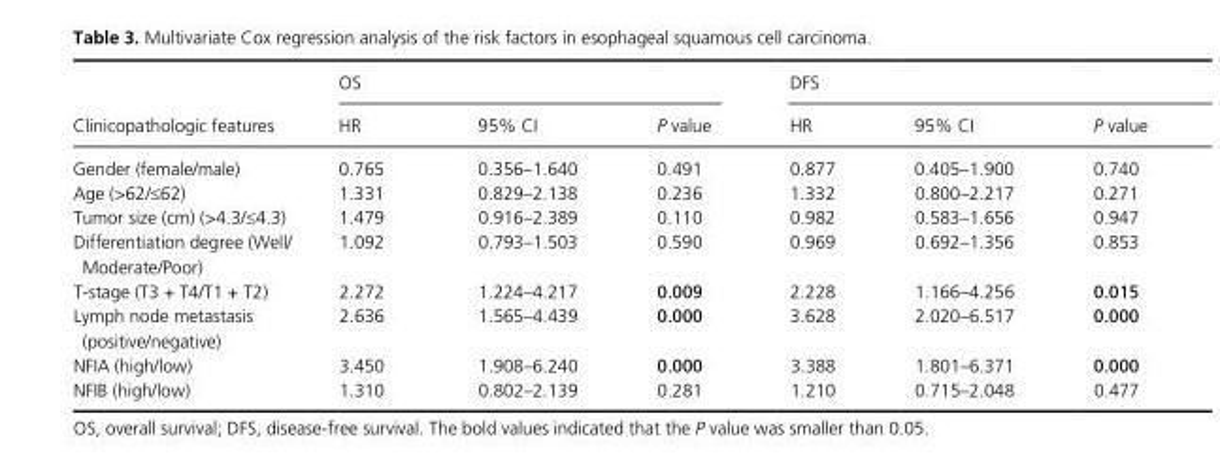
<table><thead><tr><td rowspan="2">Clinicopathologic features</td><td colspan="3">OS</td><td colspan="3">DFS</td></tr><tr><td>HR</td><td>95% CI</td><td>P value</td><td>HR</td><td>95% CI</td><td>P value</td></tr></thead><tbody><tr><td>Gender (female/male)</td><td>0.765</td><td>0.356–1.640</td><td>0.491</td><td>0.877</td><td>0.405–1.900</td><td>0.740</td></tr><tr><td>Age (&gt;62/≤62)</td><td>1.331</td><td>0.829–2.138</td><td>0.236</td><td>1.332</td><td>0.800–2.217</td><td>0.271</td></tr><tr><td>Tumor size (cm) (&gt;4.3/≤4.3)</td><td>1.479</td><td>0.916–2.389</td><td>0.110</td><td>0.982</td><td>0.583–1.656</td><td>0.947</td></tr><tr><td>Differentiation degree (Well/ Moderate/Poor)</td><td>1.092</td><td>0.793–1.503</td><td>0.590</td><td>0.969</td><td>0.692–1.356</td><td>0.853</td></tr><tr><td>T- stage (T3 + T4/T1 + T2)</td><td>2.272</td><td>1.224–4.217</td><td>0.009</td><td>2.228</td><td>1.166–4.256</td><td>0.015</td></tr><tr><td>Lymph node metastasis (positive/negative)</td><td>2.636</td><td>1.565–4.439</td><td>0.000</td><td>3.628</td><td>2.020–6.517</td><td>0.000</td></tr><tr><td>NFIA (high/low)</td><td>3.450</td><td>1.908–6.240</td><td>0.000</td><td>3.388</td><td>1.801–6.371</td><td>0.000</td></tr><tr><td>NFIB (high/low)</td><td>1.310</td><td>0.802–2.139</td><td>0.281</td><td>1.210</td><td>0.715–2.048</td><td>0.477</td></tr></tbody></table>